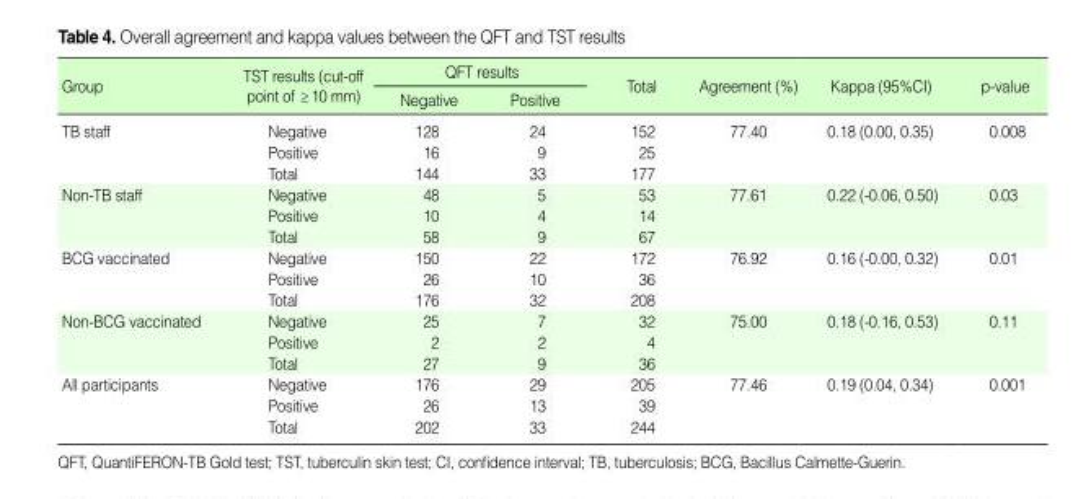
<table><thead><tr><td rowspan="2">Group</td><td rowspan="2">TST results (cut-off point of ≥10 mm)</td><td colspan="2">QFT results</td><td rowspan="2">Total</td><td rowspan="2">Agreement (%)</td><td rowspan="2">Kappa (95%CI)</td><td rowspan="2">p-value</td></tr><tr><td>Negative</td><td>Positive</td></tr></thead><tbody><tr><td rowspan="3">TB staff</td><td>Negative</td><td>128</td><td>24</td><td>152</td><td>77.40</td><td>0.18 (0.00, 0.35)</td><td>0.008</td></tr><tr><td>Positive</td><td>16</td><td>9</td><td>25</td><td></td><td></td><td></td></tr><tr><td>Total</td><td>144</td><td>33</td><td>177</td><td></td><td></td><td></td></tr><tr><td rowspan="3">Non-TB staff</td><td>Negative</td><td>48</td><td>5</td><td>53</td><td>77.61</td><td>0.22 (-0.06, 0.50)</td><td>0.03</td></tr><tr><td>Positive</td><td>10</td><td>4</td><td>14</td><td></td><td></td><td></td></tr><tr><td>Total</td><td>58</td><td>9</td><td>67</td><td></td><td></td><td></td></tr><tr><td rowspan="3">BCG vaccinated</td><td>Negative</td><td>150</td><td>22</td><td>172</td><td>76.92</td><td>0.16 (-0.00, 0.32)</td><td>0.01</td></tr><tr><td>Positive</td><td>26</td><td>10</td><td>36</td><td></td><td></td><td></td></tr><tr><td>Total</td><td>176</td><td>32</td><td>208</td><td></td><td></td><td></td></tr><tr><td rowspan="3">Non-BCG vaccinated</td><td>Negative</td><td>25</td><td>7</td><td>32</td><td>75.00</td><td>0.18 (-0.16, 0.53)</td><td>0.11</td></tr><tr><td>Positive</td><td>2</td><td>2</td><td>4</td><td></td><td></td><td></td></tr><tr><td>Total</td><td>27</td><td>9</td><td>36</td><td></td><td></td><td></td></tr><tr><td rowspan="3">All participants</td><td>Negative</td><td>176</td><td>29</td><td>205</td><td>77.46</td><td>0.19 (0.04, 0.34)</td><td>0.001</td></tr><tr><td>Positive</td><td>26</td><td>13</td><td>39</td><td></td><td></td><td></td></tr><tr><td>Total</td><td>202</td><td>33</td><td>244</td><td></td><td></td><td></td></tr></tbody></table>